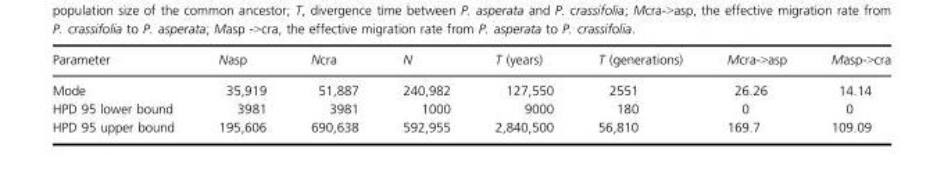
<table><thead><tr><td>Parameter</td><td>Nasp</td><td>Ncra</td><td>N</td><td>T (years)</td><td>T (generations)</td><td>Mcra-&gt;asp</td><td>Masp-&gt;cra</td></tr></thead><tbody><tr><td>Mode</td><td>35,919</td><td>51,887</td><td>240,982</td><td>127,550</td><td>2551</td><td>26.26</td><td>14.14</td></tr><tr><td>HPD 95 lower bound</td><td>3981</td><td>3981</td><td>1000</td><td>9000</td><td>180</td><td>0</td><td>0</td></tr><tr><td>HPD 95 upper bound</td><td>195,606</td><td>690,638</td><td>592,955</td><td>2,840,500</td><td>56,810</td><td>169.7</td><td>109.09</td></tr></tbody></table>